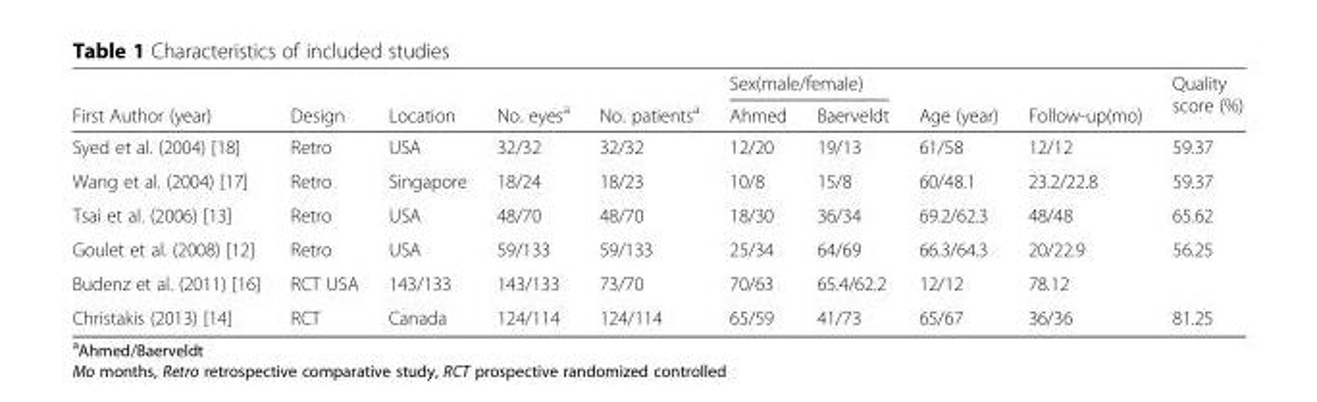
<table><thead><tr><td rowspan="2">First Author (year)</td><td rowspan="2">Design</td><td rowspan="2">Location</td><td rowspan="2">No. eyes<sup>a</sup></td><td rowspan="2">No. patients<sup>a</sup></td><td colspan="2">Sex(male/female)</td><td rowspan="2">Age (year)</td><td rowspan="2">Follow-up(mo)</td><td rowspan="2">Quality score (%)</td></tr><tr><td>Ahmed</td><td>Baerveldt</td></tr></thead><tbody><tr><td>Syed et al. (2004) [18]</td><td>Retro</td><td>USA</td><td>32/32</td><td>32/32</td><td>12/20</td><td>19/13</td><td>61/58</td><td>12/12</td><td>59.37</td></tr><tr><td>Wang et al. (2004) [17]</td><td>Retro</td><td>Singapore</td><td>18/24</td><td>18/23</td><td>10/8</td><td>15/8</td><td>60/48.1</td><td>23.2/22.8</td><td>59.37</td></tr><tr><td>Tsai et al. (2006) [13]</td><td>Retro</td><td>USA</td><td>48/70</td><td>48/70</td><td>18/30</td><td>36/34</td><td>69.2/62.3</td><td>48/48</td><td>65.62</td></tr><tr><td>Goulet et al. (2008) [12]</td><td>Retro</td><td>USA</td><td>59/133</td><td>59/133</td><td>25/34</td><td>64/69</td><td>66.3/64.3</td><td>20/22.9</td><td>56.25</td></tr><tr><td>Budenz et al. (2011) [16]</td><td>RCT USA</td><td>143/133</td><td>143/133</td><td>73/70</td><td>70/63</td><td>65.4/62.2</td><td>12/12</td><td>78.12</td><td></td></tr><tr><td>Christakis (2013) [14]</td><td>RCT</td><td>Canada</td><td>124/114</td><td>124/114</td><td>65/59</td><td>41/73</td><td>65/67</td><td>36/36</td><td>81.25</td></tr></tbody></table>